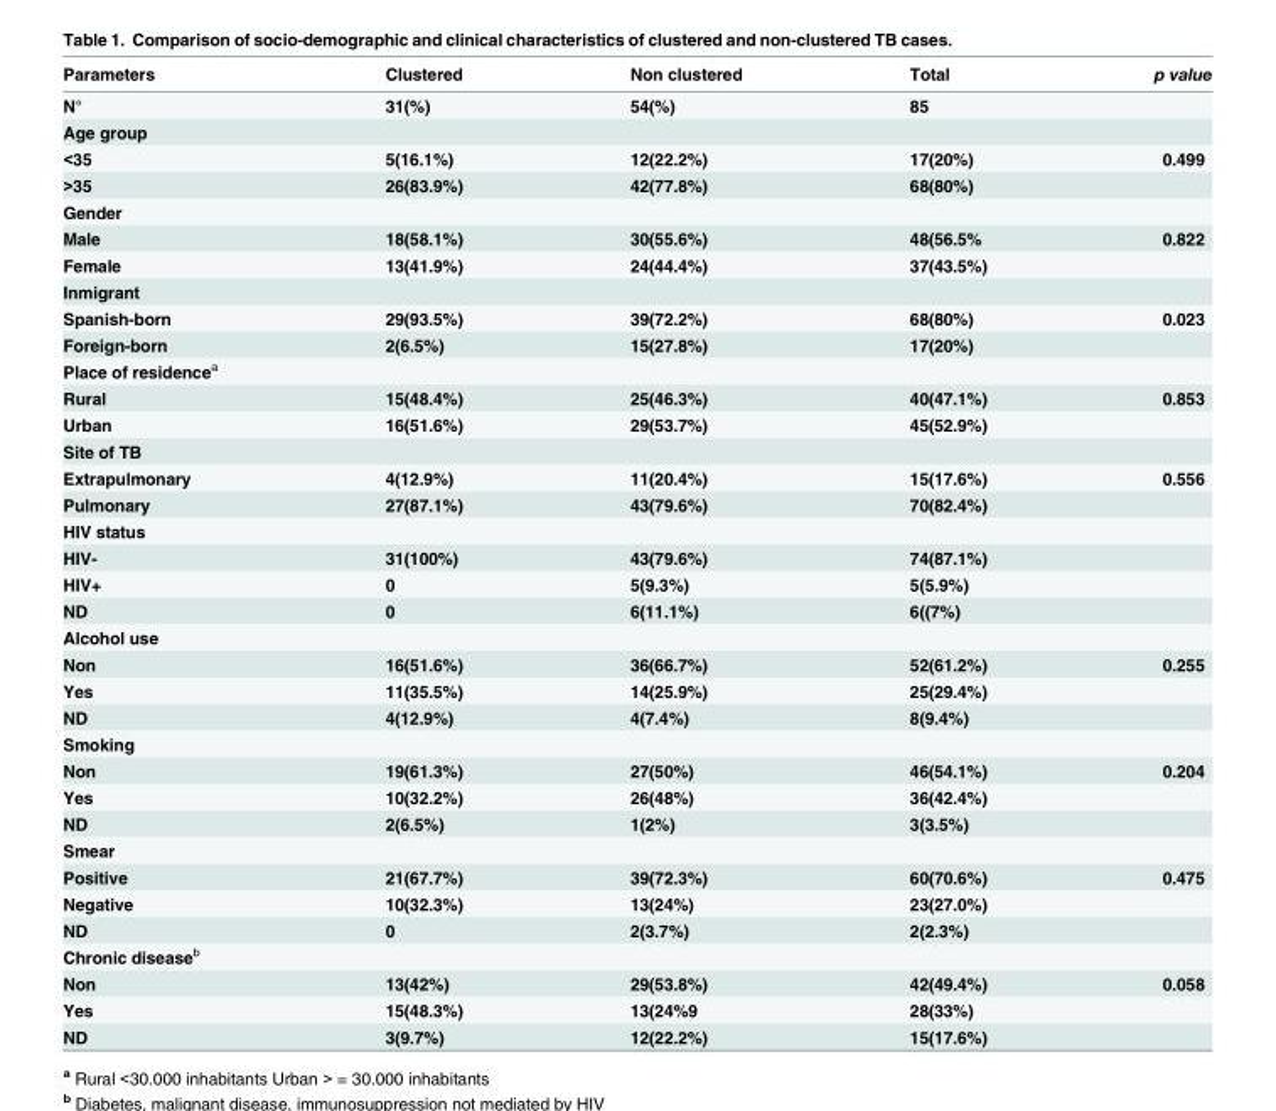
<table><thead><tr><td>Parameters</td><td>Clustered</td><td>Non clustered</td><td>Total</td><td>p value</td></tr></thead><tbody><tr><td>N°</td><td>31(%)</td><td>54(%)</td><td>85</td><td></td></tr><tr><td colspan="5">Age group</td></tr><tr><td>&lt;35</td><td>5(16.1%)</td><td>12(22.2%)</td><td>17(20%)</td><td>0.499</td></tr><tr><td>&gt;35</td><td>26(83.9%)</td><td>42(77.8%)</td><td>68(80%)</td><td></td></tr><tr><td colspan="5">Gender</td></tr><tr><td>Male</td><td>18(58.1%)</td><td>30(55.6%)</td><td>48(56.5%</td><td>0.822</td></tr><tr><td>Female</td><td>13(41.9%)</td><td>24(44.4%)</td><td>37(43.5%)</td><td></td></tr><tr><td colspan="5">Inmigrant</td></tr><tr><td>Spanish-born</td><td>29(93.5%)</td><td>39(72.2%)</td><td>68(80%)</td><td>0.023</td></tr><tr><td>Foreign-born</td><td>2(6.5%)</td><td>15(27.8%)</td><td>17(20%)</td><td></td></tr><tr><td colspan="5">Place of residence<sup>a</sup></td></tr><tr><td>Rural</td><td>15(48.4%)</td><td>25(46.3%)</td><td>40(47.1%)</td><td>0.853</td></tr><tr><td>Urban</td><td>16(51.6%)</td><td>29(53.7%)</td><td>45(52.9%)</td><td></td></tr><tr><td colspan="5">Site of TB</td></tr><tr><td>Extrapulmonary</td><td>4(12.9%)</td><td>11(20.4%)</td><td>15(17.6%)</td><td>0.556</td></tr><tr><td>Pulmonary</td><td>27(87.1%)</td><td>43(79.6%)</td><td>70(82.4%)</td><td></td></tr><tr><td colspan="5">HIV status</td></tr><tr><td>HIV-</td><td>31(100%)</td><td>43(79.6%)</td><td>74(87.1%)</td><td></td></tr><tr><td>HIV+</td><td>0</td><td>5(9.3%)</td><td>5(5.9%)</td><td></td></tr><tr><td>ND</td><td>0</td><td>6(11.1%)</td><td>6((7%)</td><td></td></tr><tr><td colspan="5">Alcohol use</td></tr><tr><td>Non</td><td>16(51.6%)</td><td>36(66.7%)</td><td>52(61.2%)</td><td>0.255</td></tr><tr><td>Yes</td><td>11(35.5%)</td><td>14(25.9%)</td><td>25(29.4%)</td><td></td></tr><tr><td>ND</td><td>4(12.9%)</td><td>4(7.4%)</td><td>8(9.4%)</td><td></td></tr><tr><td colspan="5">Smoking</td></tr><tr><td>Non</td><td>19(61.3%)</td><td>27(50%)</td><td>46(54.1%)</td><td>0.204</td></tr><tr><td>Yes</td><td>10(32.2%)</td><td>26(48%)</td><td>36(42.4%)</td><td></td></tr><tr><td>ND</td><td>2(6.5%)</td><td>1(2%)</td><td>3(3.5%)</td><td></td></tr><tr><td colspan="5">Smear</td></tr><tr><td>Positive</td><td>21(67.7%)</td><td>39(72.3%)</td><td>60(70.6%)</td><td>0.475</td></tr><tr><td>Negative</td><td>10(32.3%)</td><td>13(24%)</td><td>23(27.0%)</td><td></td></tr><tr><td>ND</td><td>0</td><td>2(3.7%)</td><td>2(2.3%)</td><td></td></tr><tr><td colspan="5">Chronic disease<sup>b</sup></td></tr><tr><td>Non</td><td>13(42%)</td><td>29(53.8%)</td><td>42(49.4%)</td><td>0.058</td></tr><tr><td>Yes</td><td>15(48.3%)</td><td>13(24%9</td><td>28(33%)</td><td></td></tr><tr><td>ND</td><td>3(9.7%)</td><td>12(22.2%)</td><td>15(17.6%)</td><td></td></tr></tbody></table>